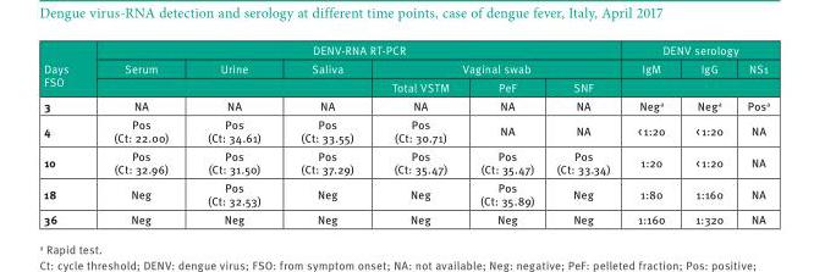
<table><thead><tr><td rowspan="3">Days FSO</td><td colspan="6">DENV-RNA RT-PCR</td><td colspan="3">DENV serology</td></tr><tr><td rowspan="2">Serum</td><td rowspan="2">Urine</td><td rowspan="2">Saliva</td><td colspan="3">Vaginal swab</td><td rowspan="2">IgM</td><td rowspan="2">IgG</td><td rowspan="2">NS1</td></tr><tr><td>Total VSTM</td><td>PeF</td><td>SNF</td></tr></thead><tbody><tr><td>3</td><td>NA</td><td>NA</td><td>NA</td><td>NA</td><td>NA</td><td>NA</td><td>Neg<sup>a</sup></td><td>Neg<sup>a</sup></td><td>Pos<sup>a</sup></td></tr><tr><td>4</td><td>Pos (Ct: 22.00)</td><td>Pos (Ct: 34.61)</td><td>Pos (Ct: 33.55)</td><td>Pos (Ct: 30.71)</td><td>NA</td><td>NA</td><td>&lt; 1:20</td><td>&lt; 1:20</td><td>NA</td></tr><tr><td>10</td><td>Pos (Ct: 32.96)</td><td>Pos (Ct: 31.50)</td><td>Pos (Ct: 37.29)</td><td>Pos (Ct: 35.47)</td><td>Pos (Ct: 35.47)</td><td>Pos (Ct: 33.34)</td><td>1:20</td><td>&lt; 1:20</td><td>NA</td></tr><tr><td>18</td><td>Neg</td><td>Pos (Ct: 32.53)</td><td>Neg</td><td>Neg</td><td>Pos (Ct: 35.89)</td><td>Neg</td><td>1:80</td><td>1:160</td><td>NA</td></tr><tr><td>36</td><td>Neg</td><td>Neg</td><td>Neg</td><td>Neg</td><td>Neg</td><td>Neg</td><td>1:160</td><td>1:320</td><td>NA</td></tr></tbody></table>